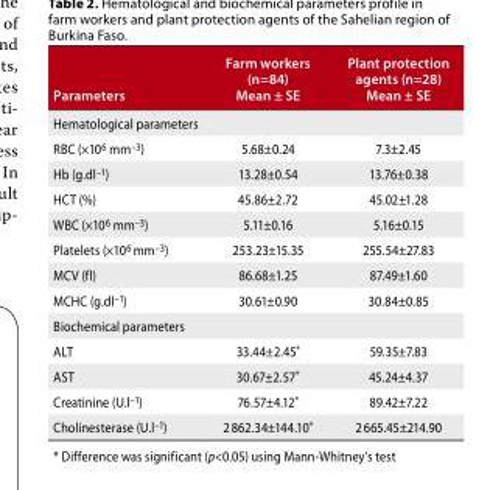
<table><thead><tr><td>Parameters</td><td>Farm workers (n=84) Mean ± SE</td><td>Plant protection agents (n=28) Mean ± SE</td></tr></thead><tbody><tr><td colspan="3">Hematological parameters</td></tr><tr><td>RBC (×10<sup>6</sup> mm<sup>–3</sup>)</td><td>5.68±0.24</td><td>7.3±2.45</td></tr><tr><td>Hb (g.dl<sup>–1</sup>)</td><td>13.28±0.54</td><td>13.76±0.38</td></tr><tr><td>HCT (%)</td><td>45.86±2.72</td><td>45.02±1.28</td></tr><tr><td>WBC (×10<sup>6</sup> mm<sup>–3</sup>)</td><td>5.11±0.16</td><td>5.16±0.15</td></tr><tr><td>Platelets (×10<sup>6</sup> mm<sup>–3</sup>)</td><td>253.23±15.35</td><td>255.54±27.83</td></tr><tr><td>MCV (fl)</td><td>86.68±1.25</td><td>87.49±1.60</td></tr><tr><td>MCHC (g.dl<sup>–1</sup>)</td><td>30.61±0.90</td><td>30.84±0.85</td></tr><tr><td colspan="3">Biochemical parameters</td></tr><tr><td>ALT</td><td>33.44±2.45*</td><td>59.35±7.83</td></tr><tr><td>AST</td><td>30.67±2.57*</td><td>45.24±4.37</td></tr><tr><td>Creatinine (U.l<sup>–1</sup>)</td><td>76.57±4.12*</td><td>89.42±7.22</td></tr><tr><td>Cholinesterase (U.l<sup>–1</sup>)</td><td>2 862.34±144.10*</td><td>2 665.45±214.90</td></tr></tbody></table>